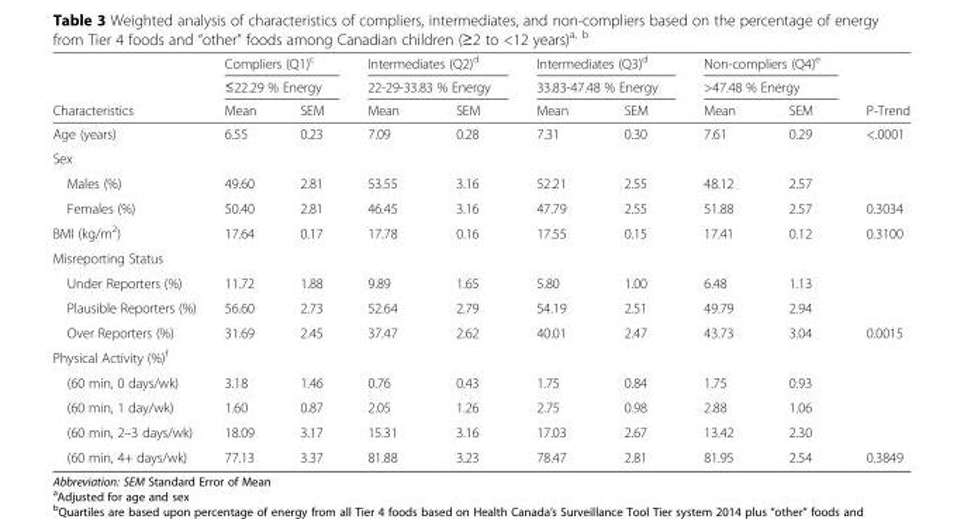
<table><thead><tr><td rowspan="3">Characteristics</td><td rowspan="2" colspan="2">Compliers (Q1)<sup>c</sup> ≤22.29 % Energy</td><td rowspan="2" colspan="2">Intermediates (Q2)<sup>d</sup> 22-29-33.83 % Energy</td><td rowspan="2" colspan="2">Intermediates (Q3)<sup>d</sup> 33.83-47.48 % Energy</td><td rowspan="2" colspan="2">Non-compliers (Q4)<sup>e</sup> &gt;47.48 % Energy</td><td rowspan="3">P-Trend</td></tr><tr></tr><tr><td>Mean</td><td>SEM</td><td>Mean</td><td>SEM</td><td>Mean</td><td>SEM</td><td>Mean</td><td>SEM</td></tr></thead><tbody><tr><td>Age (years)</td><td>6.55</td><td>0.23</td><td>7.09</td><td>0.28</td><td>7.31</td><td>0.30</td><td>7.61</td><td>0.29</td><td>&lt;.0001</td></tr><tr><td colspan="10">Sex</td></tr><tr><td>Males (%)</td><td>49.60</td><td>2.81</td><td>53.55</td><td>3.16</td><td>52.21</td><td>2.55</td><td>48.12</td><td>2.57</td><td></td></tr><tr><td>Females (%)</td><td>50.40</td><td>2.81</td><td>46.45</td><td>3.16</td><td>47.79</td><td>2.55</td><td>51.88</td><td>2.57</td><td>0.3034</td></tr><tr><td>BMI (kg/m<sup>2</sup>)</td><td>17.64</td><td>0.17</td><td>17.78</td><td>0.16</td><td>17.55</td><td>0.15</td><td>17.41</td><td>0.12</td><td>0.3100</td></tr><tr><td colspan="10">Misreporting Status</td></tr><tr><td>Under Reporters (%)</td><td>11.72</td><td>1.88</td><td>9.89</td><td>1.65</td><td>5.80</td><td>1.00</td><td>6.48</td><td>1.13</td><td></td></tr><tr><td>Plausible Reporters (%)</td><td>56.60</td><td>2.73</td><td>52.64</td><td>2.79</td><td>54.19</td><td>2.51</td><td>49.79</td><td>2.94</td><td></td></tr><tr><td>Over Reporters (%)</td><td>31.69</td><td>2.45</td><td>37.47</td><td>2.62</td><td>40.01</td><td>2.47</td><td>43.73</td><td>3.04</td><td>0.0015</td></tr><tr><td colspan="10">Physical Activity (%)<sup>f</sup></td></tr><tr><td>(60 min, 0 days/wk)</td><td>3.18</td><td>1.46</td><td>0.76</td><td>0.43</td><td>1.75</td><td>0.84</td><td>1.75</td><td>0.93</td><td></td></tr><tr><td>(60 min, 1 day/wk)</td><td>1.60</td><td>0.87</td><td>2.05</td><td>1.26</td><td>2.75</td><td>0.98</td><td>2.88</td><td>1.06</td><td></td></tr><tr><td>(60 min, 2–3 days/wk)</td><td>18.09</td><td>3.17</td><td>15.31</td><td>3.16</td><td>17.03</td><td>2.67</td><td>13.42</td><td>2.30</td><td></td></tr><tr><td>(60 min, 4+ days/wk)</td><td>77.13</td><td>3.37</td><td>81.88</td><td>3.23</td><td>78.47</td><td>2.81</td><td>81.95</td><td>2.54</td><td>0.3849</td></tr></tbody></table>